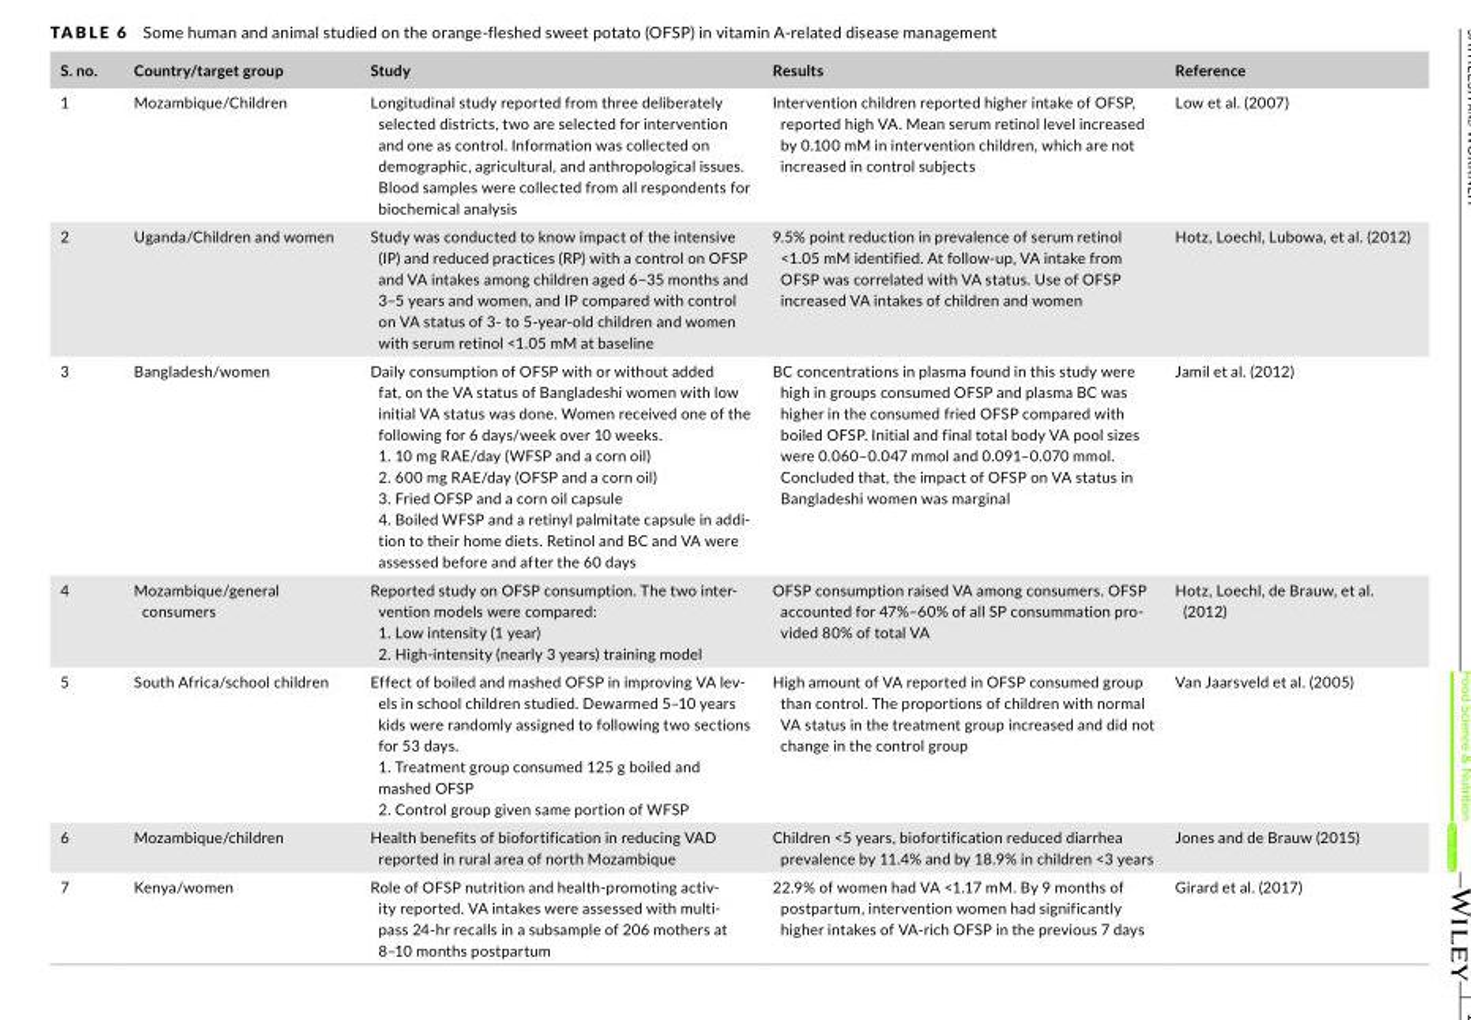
<table><thead><tr><td>S. no.</td><td>Country/target group</td><td>Study</td><td>Results</td><td>Reference</td></tr></thead><tbody><tr><td>1</td><td>Mozambique/Children</td><td>Longitudinal study reported from three deliberately selected districts, two are selected for intervention and one as control. Information was collected on demographic, agricultural, and anthropological issues. Blood samples were collected from all respondents for biochemical analysis</td><td>Intervention children reported higher intake of OFSP, reported high VA. Mean serum retinol level increased by 0.100 mM in intervention children, which are not increased in control subjects</td><td>Low et al. (2007)</td></tr><tr><td>2</td><td>Uganda/Children and women</td><td>Study was conducted to know impact of the intensive (IP) and reduced practices (RP) with a control on OFSP and VA intakes among children aged 6−35 months and 3–5 years and women, and IP compared with control on VA status of 3- to 5-year-old children and women with serum retinol &lt;1.05 mM at baseline</td><td>9.5% point reduction in prevalence of serum retinol &lt;1.05 mM identified. At follow‐up, VA intake from OFSP was correlated with VA status. Use of OFSP increased VA intakes of children and women</td><td>Hotz, Loechl, Lubowa, et al. (2012)</td></tr><tr><td>3</td><td>Bangladesh/women</td><td>Daily consumption of OFSP with or without added fat, on the VA status of Bangladeshi women with low initial VA status was done. Women received one of the following for 6 days/week over 10 weeks. 1. 10 mg RAE/day (WFSP and a corn oil) 2. 600 mg RAE/day (OFSP and a corn oil) 3. Fried OFSP and a corn oil capsule 4. Boiled WFSP and a retinyl palmitate capsule in addi- tion to their home diets. Retinol and BC and VA were assessed before and after the 60 days</td><td>BC concentrations in plasma found in this study were high in groups consumed OFSP and plasma BC was higher in the consumed fried OFSP compared with boiled OFSP. Initial and final total body VA pool sizes were 0.060–0.047 mmol and 0.091–0.070 mmol. Concluded that, the impact of OFSP on VA status in Bangladeshi women was marginal</td><td>Jamil et al. (2012)</td></tr><tr><td>4</td><td>Mozambique/general consumers</td><td>Reported study on OFSP consumption. The two inter- vention models were compared: 1. Low intensity (1 year) 2. High-intensity (nearly 3 years) training model</td><td>OFSP consumption raised VA among consumers. OFSP accounted for 47%–60% of all SP consummation pro- vided 80% of total VA</td><td>Hotz, Loechl, de Brauw, et al. (2012)</td></tr><tr><td>5</td><td>South Africa/school children</td><td>Effect of boiled and mashed OFSP in improving VA lev- els in school children studied. Dewarmed 5–10 years kids were randomly assigned to following two sections for 53 days. 1. Treatment group consumed 125 g boiled and mashed OFSP 2. Control group given same portion of WFSP</td><td>High amount of VA reported in OFSP consumed group than control. The proportions of children with normal VA status in the treatment group increased and did not change in the control group</td><td>Van Jaarsveld et al. (2005)</td></tr><tr><td>6</td><td>Mozambique/children</td><td>Health benefits of biofortification in reducing VAD reported in rural area of north Mozambique</td><td>Children &lt;5 years, biofortification reduced diarrhea prevalence by 11.4% and by 18.9% in children &lt;3 years</td><td>Jones and de Brauw (2015)</td></tr><tr><td>7</td><td>Kenya/women</td><td>Role of OFSP nutrition and health-promoting activ- ity reported. VA intakes were assessed with multi- pass 24-hr recalls in a subsample of 206 mothers at 8–10 months postpartum</td><td>22.9% of women had VA &lt;1.17 mM. By 9 months of postpartum, intervention women had significantly higher intakes of VA-rich OFSP in the previous 7 days</td><td>Girard et al. (2017)</td></tr></tbody></table>